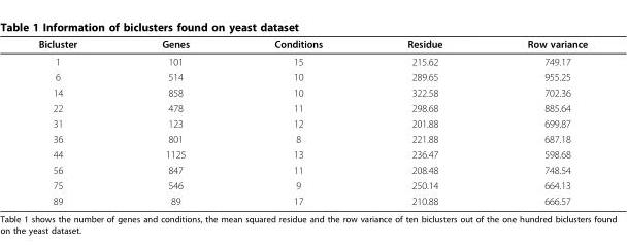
<table><thead><tr><td>Bicluster</td><td>Genes</td><td>Conditions</td><td>Residue</td><td>Row variance</td></tr></thead><tbody><tr><td>1</td><td>101</td><td>15</td><td>215.62</td><td>749.17</td></tr><tr><td>6</td><td>514</td><td>10</td><td>289.65</td><td>955.25</td></tr><tr><td>14</td><td>858</td><td>10</td><td>322.58</td><td>702.36</td></tr><tr><td>22</td><td>478</td><td>11</td><td>298.68</td><td>885.64</td></tr><tr><td>31</td><td>123</td><td>12</td><td>201.88</td><td>699.87</td></tr><tr><td>36</td><td>801</td><td>8</td><td>221.88</td><td>687.18</td></tr><tr><td>44</td><td>1125</td><td>13</td><td>236.47</td><td>598.68</td></tr><tr><td>56</td><td>847</td><td>11</td><td>208.48</td><td>748.54</td></tr><tr><td>75</td><td>546</td><td>9</td><td>250.14</td><td>664.13</td></tr><tr><td>89</td><td>89</td><td>17</td><td>210.88</td><td>666.57</td></tr></tbody></table>